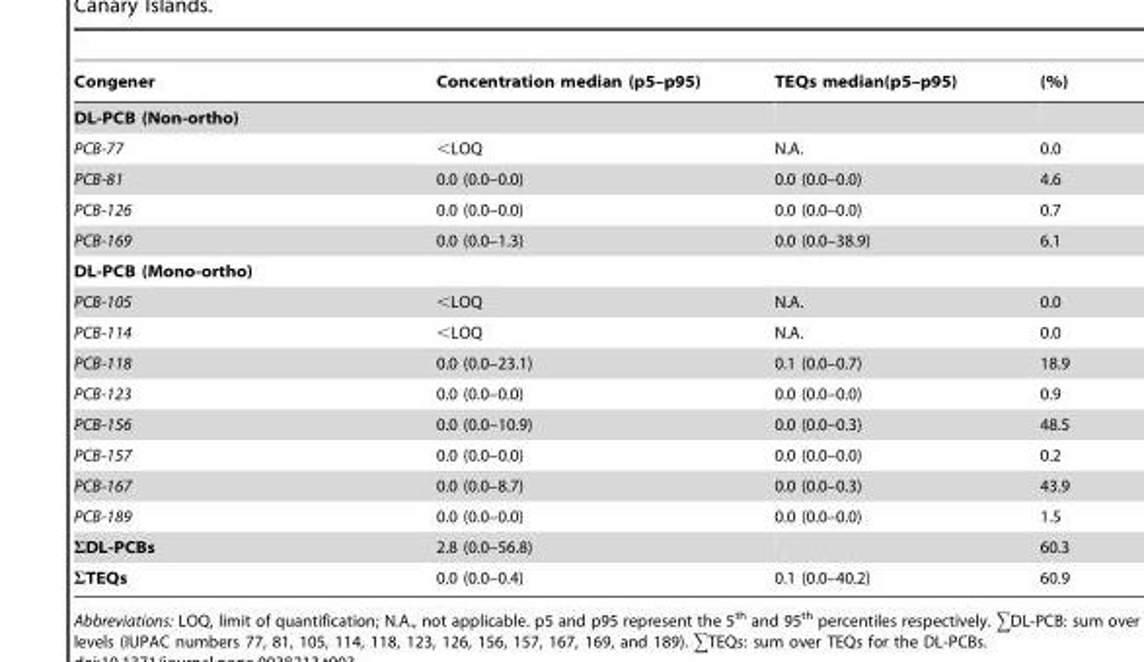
<table><thead><tr><td>Congener</td><td>Concentration median (p5–p95)</td><td>TEQs median(p5–p95)</td><td>(%)</td></tr></thead><tbody><tr><td colspan="4">DL-PCB (Non-ortho)</td></tr><tr><td>PCB-77</td><td>&lt;LOQ</td><td>N.A.</td><td>0.0</td></tr><tr><td>PCB-81</td><td>0.0 (0.0–0.0)</td><td>0.0 (0.0–0.0)</td><td>4.6</td></tr><tr><td>PCB-126</td><td>0.0 (0.0–0.0)</td><td>0.0 (0.0–0.0)</td><td>0.7</td></tr><tr><td>PCB-169</td><td>0.0 (0.0–1.3)</td><td>0.0 (0.0–38.9)</td><td>6.1</td></tr><tr><td colspan="4">DL-PCB (Mono-ortho)</td></tr><tr><td>PCB-105</td><td>&lt;LOQ</td><td>N.A.</td><td>0.0</td></tr><tr><td>PCB-114</td><td>&lt;LOQ</td><td>N.A.</td><td>0.0</td></tr><tr><td>PCB-118</td><td>0.0 (0.0–23.1)</td><td>0.1 (0.0–0.7)</td><td>18.9</td></tr><tr><td>PCB-123</td><td>0.0 (0.0–0.0)</td><td>0.0 (0.0–0.0)</td><td>0.9</td></tr><tr><td>PCB-156</td><td>0.0 (0.0–10.9)</td><td>0.0 (0.0–0.3)</td><td>48.5</td></tr><tr><td>PCB-157</td><td>0.0 (0.0–0.0)</td><td>0.0 (0.0–0.0)</td><td>0.2</td></tr><tr><td>PCB-167</td><td>0.0 (0.0–8.7)</td><td>0.0 (0.0–0.3)</td><td>43.9</td></tr><tr><td>PCB-189</td><td>0.0 (0.0–0.0)</td><td>0.0 (0.0–0.0)</td><td>1.5</td></tr><tr><td>ΣDL-PCBs</td><td>2.8 (0.0–56.8)</td><td></td><td>60.3</td></tr><tr><td>ΣTEQs</td><td>0.0 (0.0–0.4)</td><td>0.1 (0.0–40.2)</td><td>60.9</td></tr></tbody></table>